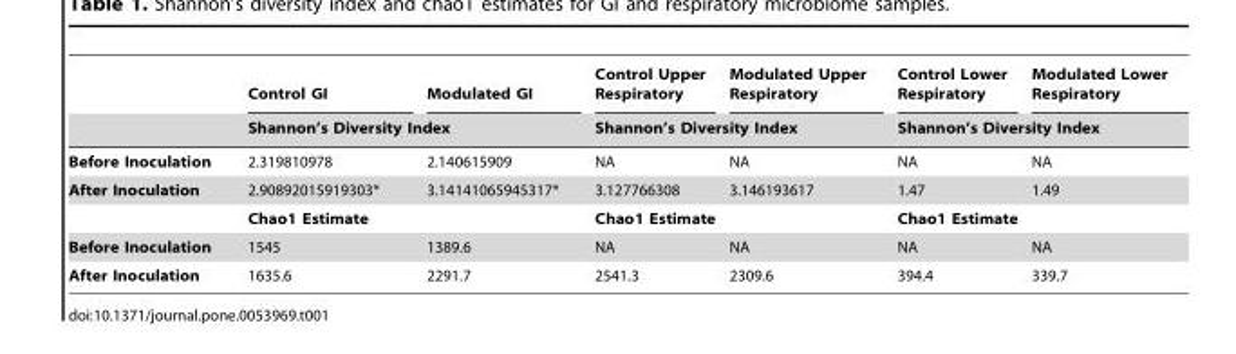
<table><thead><tr><td rowspan="2"></td><td>Control GI</td><td>Modulated GI</td><td>Control Upper Respiratory</td><td>Modulated Upper Respiratory</td><td>Control Lower Respiratory</td><td>Modulated Lower Respiratory</td></tr><tr><td colspan="2">Shannon’s Diversity Index</td><td colspan="2">Shannon’s Diversity Index</td><td colspan="2">Shannon’s Diversity Index</td></tr></thead><tbody><tr><td>Before Inoculation</td><td>2.319810978</td><td>2.140615909</td><td>NA</td><td>NA</td><td>NA</td><td>NA</td></tr><tr><td rowspan="2">After Inoculation</td><td>2.90892015919303*</td><td>3.14141065945317*</td><td>3.127766308</td><td>3.146193617</td><td>1.47</td><td>1.49</td></tr><tr><td colspan="2">Chao1 Estimate</td><td colspan="2">Chao1 Estimate</td><td colspan="2">Chao1 Estimate</td></tr><tr><td>Before Inoculation</td><td>1545</td><td>1389.6</td><td>NA</td><td>NA</td><td>NA</td><td>NA</td></tr><tr><td>After Inoculation</td><td>1635.6</td><td>2291.7</td><td>2541.3</td><td>2309.6</td><td>394.4</td><td>339.7</td></tr></tbody></table>